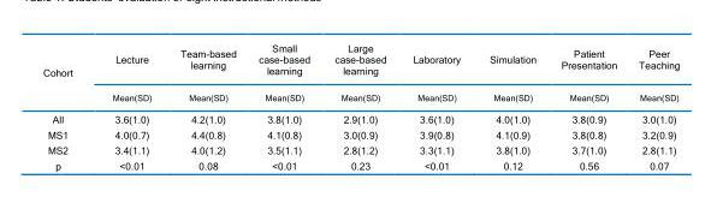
<table><thead><tr><td rowspan="2">Cohort</td><td rowspan="2">Lecture Mean(SD)</td><td rowspan="2">Team-based learning Mean(SD)</td><td rowspan="2">Small case-based learning Mean(SD)</td><td rowspan="2">Large case-based learning Mean(SD)</td><td rowspan="2">Laboratory Mean(SD)</td><td rowspan="2">Simulation Mean(SD)</td><td rowspan="2">Patient Presentation Mean(SD)</td><td rowspan="2">Peer Teaching Mean(SD)</td></tr><tr></tr></thead><tbody><tr><td>All</td><td>3.6(1.0)</td><td>4.2(1.0)</td><td>3.8(1.0)</td><td>2.9(1.0)</td><td>3.6(1.0)</td><td>4.0(1.0)</td><td>3.8(0.9)</td><td>3.0(1.0)</td></tr><tr><td>MS1</td><td>4.0(0.7)</td><td>4.4(0.8)</td><td>4.1(0.8)</td><td>3.0(0.9)</td><td>3.9(0.8)</td><td>4.1(0.9)</td><td>3.8(0.8)</td><td>3.2(0.9)</td></tr><tr><td>MS2</td><td>3.4(1.1)</td><td>4.0(1.2)</td><td>3.5(1.1)</td><td>2.8(1.2)</td><td>3.3(1.1)</td><td>3.8(1.0)</td><td>3.7(1.0)</td><td>2.8(1.1)</td></tr><tr><td>p</td><td>&lt;0.01</td><td>0.08</td><td>&lt;0.01</td><td>0.23</td><td>&lt;0.01</td><td>0.12</td><td>0.56</td><td>0.07</td></tr></tbody></table>